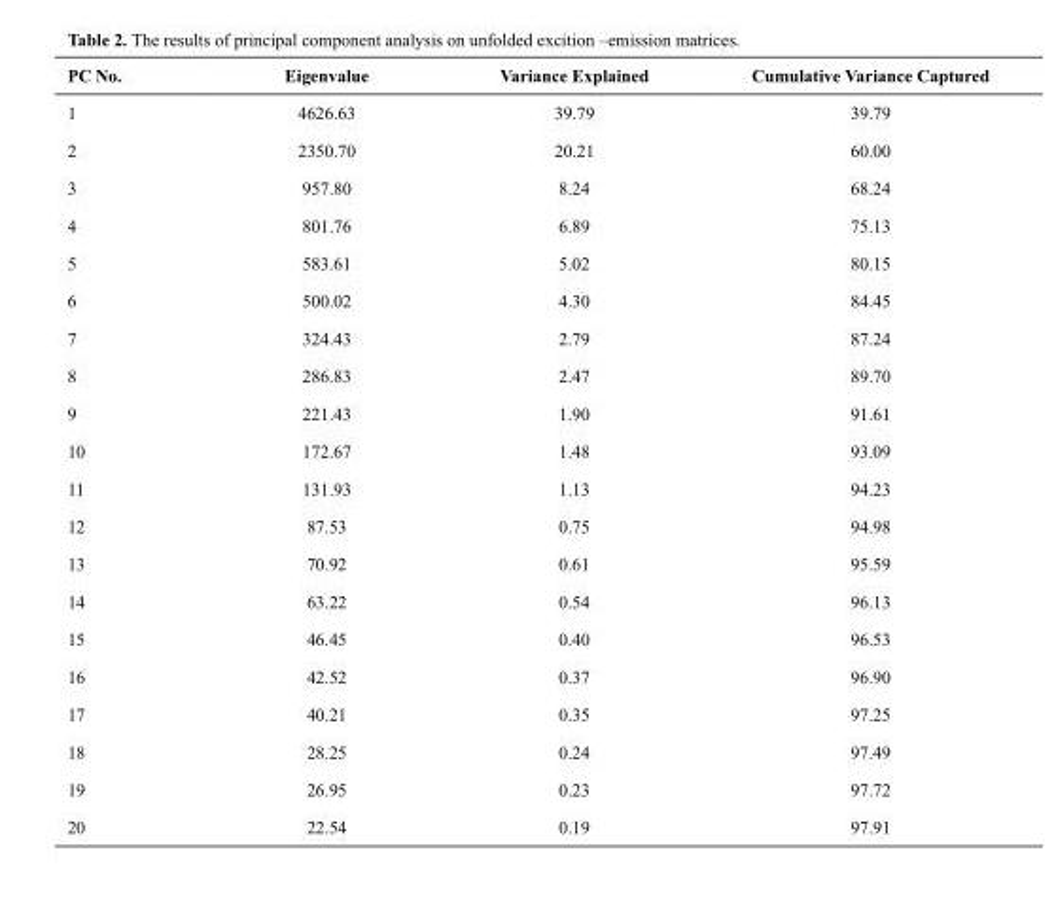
<table><thead><tr><td>PC No.</td><td>Eigenvalue</td><td>Variance Explained</td><td>Cumulative Variance Captured</td></tr></thead><tbody><tr><td>1</td><td>4626.63</td><td>39.79</td><td>39.79</td></tr><tr><td>2</td><td>2350.70</td><td>20.21</td><td>60.00</td></tr><tr><td>3</td><td>957.80</td><td>8.24</td><td>68.24</td></tr><tr><td>4</td><td>801.76</td><td>6.89</td><td>75.13</td></tr><tr><td>5</td><td>583.61</td><td>5.02</td><td>80.15</td></tr><tr><td>6</td><td>500.02</td><td>4.30</td><td>84.45</td></tr><tr><td>7</td><td>324.43</td><td>2.79</td><td>87.24</td></tr><tr><td>8</td><td>286.83</td><td>2.47</td><td>89.70</td></tr><tr><td>9</td><td>221.43</td><td>1.90</td><td>91.61</td></tr><tr><td>10</td><td>172.67</td><td>1.48</td><td>93.09</td></tr><tr><td>11</td><td>131.93</td><td>1.13</td><td>94.23</td></tr><tr><td>12</td><td>87.53</td><td>0.75</td><td>94.98</td></tr><tr><td>13</td><td>70.92</td><td>0.61</td><td>95.59</td></tr><tr><td>14</td><td>63.22</td><td>0.54</td><td>96.13</td></tr><tr><td>15</td><td>46.45</td><td>0.40</td><td>96.53</td></tr><tr><td>16</td><td>42.52</td><td>0.37</td><td>96.90</td></tr><tr><td>17</td><td>40.21</td><td>0.35</td><td>97.25</td></tr><tr><td>18</td><td>28.25</td><td>0.24</td><td>97.49</td></tr><tr><td>19</td><td>26.95</td><td>0.23</td><td>97.72</td></tr><tr><td>20</td><td>22.54</td><td>0.19</td><td>97.91</td></tr></tbody></table>